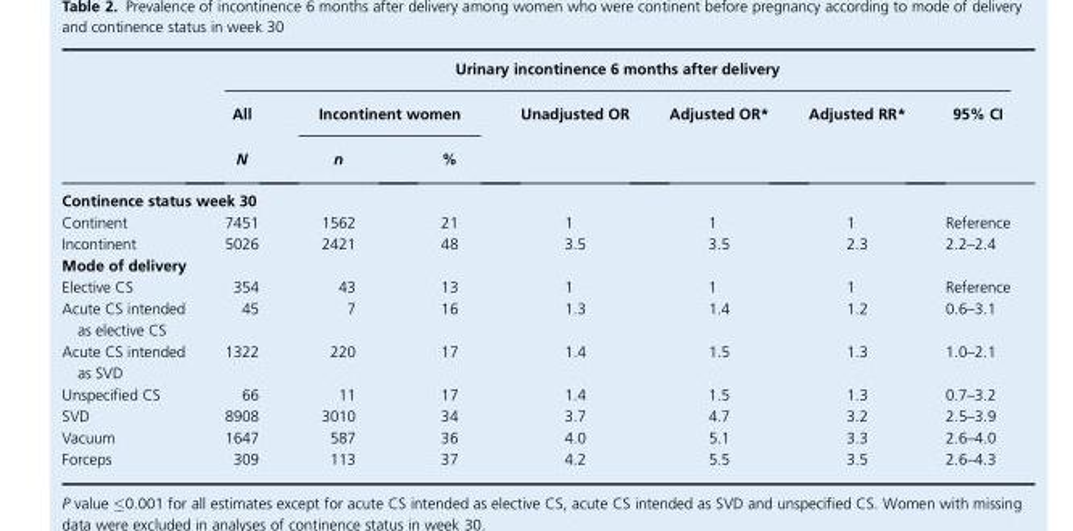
<table><thead><tr><td rowspan="3"></td><td colspan="7">Urinary incontinence 6 months after delivery</td></tr><tr><td rowspan="2">All N</td><td colspan="2">Incontinent women</td><td rowspan="2">Unadjusted OR</td><td rowspan="2">Adjusted OR*</td><td rowspan="2">Adjusted RR*</td><td rowspan="2">95% CI</td></tr><tr><td>n</td><td>%</td></tr></thead><tbody><tr><td colspan="8">Continence status week 30</td></tr><tr><td>Continent</td><td>7451</td><td>1562</td><td>21</td><td>1</td><td>1</td><td>1</td><td>Reference</td></tr><tr><td>Incontinent</td><td>5026</td><td>2421</td><td>48</td><td>3.5</td><td>3.5</td><td>2.3</td><td>2.2–2.4</td></tr><tr><td colspan="8">Mode of delivery</td></tr><tr><td>Elective CS</td><td>354</td><td>43</td><td>13</td><td>1</td><td>1</td><td>1</td><td>Reference</td></tr><tr><td>Acute CS intended as elective CS</td><td>45</td><td>7</td><td>16</td><td>1.3</td><td>1.4</td><td>1.2</td><td>0.6–3.1</td></tr><tr><td>Acute CS intended as SVD</td><td>1322</td><td>220</td><td>17</td><td>1.4</td><td>1.5</td><td>1.3</td><td>1.0–2.1</td></tr><tr><td>Unspecified CS</td><td>66</td><td>11</td><td>17</td><td>1.4</td><td>1.5</td><td>1.3</td><td>0.7–3.2</td></tr><tr><td>SVD</td><td>8908</td><td>3010</td><td>34</td><td>3.7</td><td>4.7</td><td>3.2</td><td>2.5–3.9</td></tr><tr><td>Vacuum</td><td>1647</td><td>587</td><td>36</td><td>4.0</td><td>5.1</td><td>3.3</td><td>2.6–4.0</td></tr><tr><td>Forceps</td><td>309</td><td>113</td><td>37</td><td>4.2</td><td>5.5</td><td>3.5</td><td>2.6–4.3</td></tr></tbody></table>